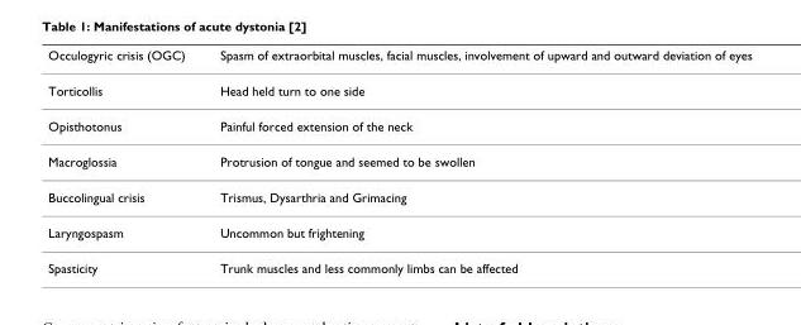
<table><thead><tr><td>Occulogyric crisis (OGC)</td><td>Spasm of extraorbital muscles, facial muscles, involvement of upward and outward deviation of eyes</td></tr></thead><tbody><tr><td>Torticollis</td><td>Head held turn to one side</td></tr><tr><td>Opisthotonus</td><td>Painful forced extension of the neck</td></tr><tr><td>Macroglossia</td><td>Protrusion of tongue and seemed to be swollen</td></tr><tr><td>Buccolingual crisis</td><td>Trismus, Dysarthria and Grimacing</td></tr><tr><td>Laryngospasm</td><td>Uncommon but frightening</td></tr><tr><td>Spasticity</td><td>Trunk muscles and less commonly limbs can be affected</td></tr></tbody></table>